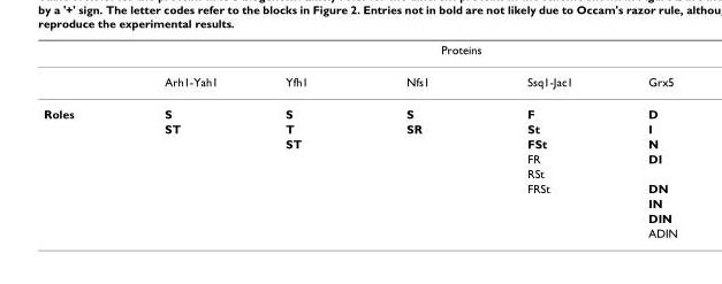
<table><thead><tr><td rowspan="2"></td><td colspan="5">Proteins</td></tr><tr><td>Arh1-Yah1</td><td>Yfh1</td><td>Nfs1</td><td>Ssq1-Jac1</td><td>Grx5</td></tr></thead><tbody><tr><td rowspan="9">Roles</td><td>S</td><td>S</td><td>S</td><td>F</td><td>D</td></tr><tr><td>ST</td><td>T</td><td>SR</td><td>St</td><td>I</td></tr><tr><td></td><td>ST</td><td></td><td>FSt</td><td>N</td></tr><tr><td></td><td></td><td></td><td>FR</td><td>DI</td></tr><tr><td></td><td></td><td></td><td>RSt</td><td></td></tr><tr><td></td><td></td><td></td><td>FRSt</td><td>DN</td></tr><tr><td></td><td></td><td></td><td></td><td>IN</td></tr><tr><td></td><td></td><td></td><td></td><td>DIN</td></tr><tr><td></td><td></td><td></td><td></td><td>ADIN</td></tr></tbody></table>